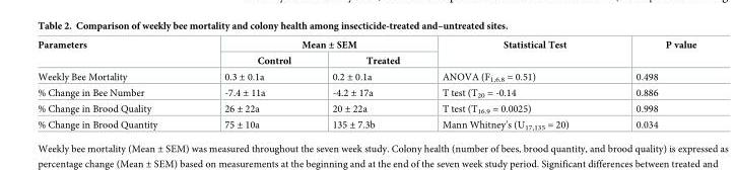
<table><thead><tr><td rowspan="2">Parameters</td><td colspan="2">Mean ± SEM</td><td rowspan="2">Statistical Test</td><td rowspan="2">P value</td></tr><tr><td>Control</td><td>Treated</td></tr></thead><tbody><tr><td>Weekly Bee Mortality</td><td>0.3 ± 0.1a</td><td>0.2 ± 0.1a</td><td>ANOVA (F<sub>1,6.8</sub> = 0.51)</td><td>0.498</td></tr><tr><td>% Change in Bee Number</td><td>-7.4 ± 11a</td><td>-4.2 ± 17a</td><td>T test (T<sub>20</sub> = -0.14</td><td>0.886</td></tr><tr><td>% Change in Brood Quality</td><td>26 ± 22a</td><td>20 ± 22a</td><td>T test (T<sub>16.9</sub> = 0.0025)</td><td>0.998</td></tr><tr><td>% Change in Brood Quantity</td><td>75 ± 10a</td><td>135 ± 7.3b</td><td>Mann Whitney’s (U<sub>17,135</sub> = 20)</td><td>0.034</td></tr></tbody></table>